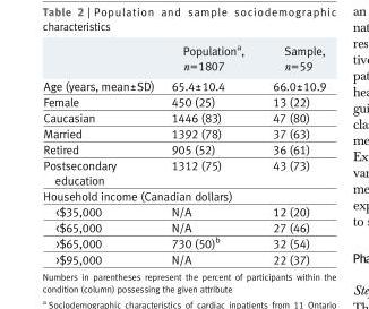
<table><thead><tr><td></td><td>Population<sup>a</sup>, n=1807</td><td>Sample, n=59</td></tr></thead><tbody><tr><td>Age (years, mean±SD)</td><td>65.4±10.4</td><td>66.0±10.9</td></tr><tr><td>Female</td><td>450 (25)</td><td>13 (22)</td></tr><tr><td>Caucasian</td><td>1446 (83)</td><td>47 (80)</td></tr><tr><td>Married</td><td>1392 (78)</td><td>37 (63)</td></tr><tr><td>Retired</td><td>905 (52)</td><td>36 (61)</td></tr><tr><td>Postsecondary education</td><td>1312 (75)</td><td>43 (73)</td></tr><tr><td colspan="3">Household income (Canadian dollars)</td></tr><tr><td>&lt;$35,000</td><td>N/A</td><td>12 (20)</td></tr><tr><td>&lt;$65,000</td><td>N/A</td><td>27 (46)</td></tr><tr><td>&gt;$65,000</td><td>730 (50)<sup>b</sup></td><td>32 (54)</td></tr><tr><td>&gt;$95,000</td><td>N/A</td><td>22 (37)</td></tr></tbody></table>